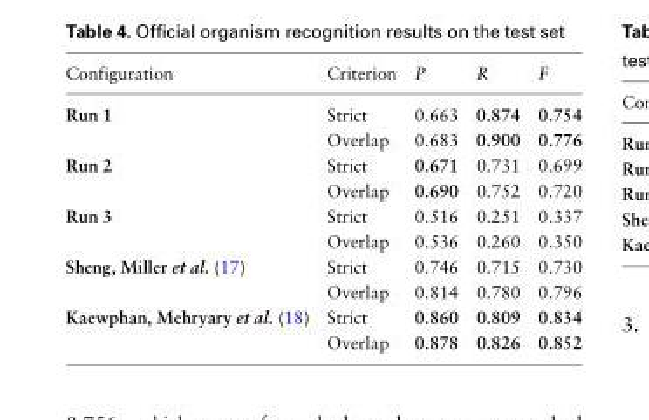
<table><thead><tr><td>Configuration</td><td>Criterion</td><td>P</td><td>R</td><td>F</td></tr></thead><tbody><tr><td rowspan="2">Run 1</td><td>Strict</td><td>0.663</td><td>0.874</td><td>0.754</td></tr><tr><td>Overlap</td><td>0.683</td><td>0.900</td><td>0.776</td></tr><tr><td rowspan="2">Run 2</td><td>Strict</td><td>0.671</td><td>0.731</td><td>0.699</td></tr><tr><td>Overlap</td><td>0.690</td><td>0.752</td><td>0.720</td></tr><tr><td rowspan="2">Run 3</td><td>Strict</td><td>0.516</td><td>0.251</td><td>0.337</td></tr><tr><td>Overlap</td><td>0.536</td><td>0.260</td><td>0.350</td></tr><tr><td rowspan="2">Sheng, Miller et al. (17)</td><td>Strict</td><td>0.746</td><td>0.715</td><td>0.730</td></tr><tr><td>Overlap</td><td>0.814</td><td>0.780</td><td>0.796</td></tr><tr><td rowspan="2">Kaewphan, Mehryary et al. (18)</td><td>Strict</td><td>0.860</td><td>0.809</td><td>0.834</td></tr><tr><td>Overlap</td><td>0.878</td><td>0.826</td><td>0.852</td></tr></tbody></table>